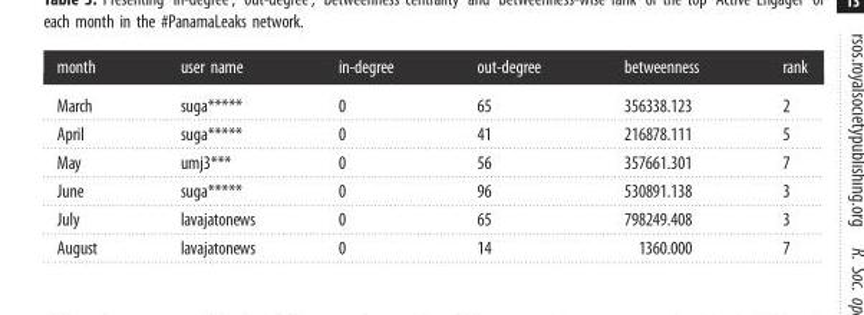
<table><thead><tr><td>month</td><td>user name</td><td>in-degree</td><td>out-degree</td><td>betweenness</td><td>rank</td></tr></thead><tbody><tr><td>March</td><td>suga*****</td><td>0</td><td>65</td><td>356338.123</td><td>2</td></tr><tr><td>April</td><td>suga*****</td><td>0</td><td>41</td><td>216878.111</td><td>5</td></tr><tr><td>May</td><td>umj3***</td><td>0</td><td>56</td><td>357661.301</td><td>7</td></tr><tr><td>June</td><td>suga*****</td><td>0</td><td>96</td><td>530891.138</td><td>3</td></tr><tr><td>July</td><td>lavajatonews</td><td>0</td><td>65</td><td>798249.408</td><td>3</td></tr><tr><td>August</td><td>lavajatonews</td><td>0</td><td>14</td><td>1360.000</td><td>7</td></tr></tbody></table>